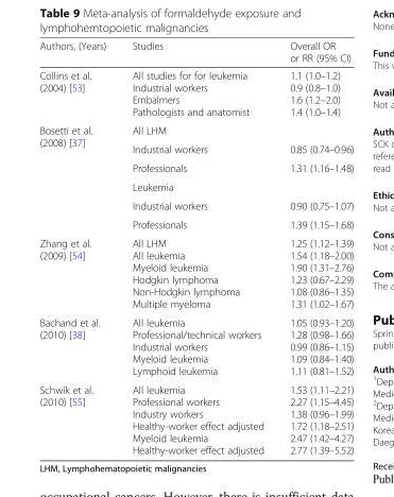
<table><thead><tr><td>Authors, (Years)</td><td>Studies</td><td>Overall OR or RR (95% CI)</td></tr></thead><tbody><tr><td>Collins et al. (2004) [53]</td><td>All studies for for leukemia Industrial workers Embalmers Pathologists and anatomist</td><td>1.1 (1.0–1.2) 0.9 (0.8–1.0) 1.6 (1.2–2.0) 1.4 (1.0–1.4)</td></tr><tr><td rowspan="6">Bosetti et al. (2008) [37]</td><td>All LHM</td><td></td></tr><tr><td>Industrial workers</td><td>0.85 (0.74–0.96)</td></tr><tr><td>Professionals</td><td>1.31 (1.16–1.48)</td></tr><tr><td>Leukemia</td><td></td></tr><tr><td>Industrial workers</td><td>0.90 (0.75–1.07)</td></tr><tr><td>Professionals</td><td>1.39 (1.15–1.68)</td></tr><tr><td>Zhang et al. (2009) [54]</td><td>All LHM All leukemia Myeloid leukemia Hodgkin lymphoma Non-Hodgkin lymphoma Multiple myeloma</td><td>1.25 (1.12–1.39) 1.54 (1.18–2.00) 1.90 (1.31–2.76) 1.23 (0.67–2.29) 1.08 (0.86–1.35) 1.31 (1.02–1.67)</td></tr><tr><td>Bachand et al. (2010) [38]</td><td>All leukemia Professional/technical workers Industrial workers Myeloid leukemia Lymphoid leukemia</td><td>1.05 (0.93–1.20) 1.28 (0.98–1.66) 0.99 (0.86–1.15) 1.09 (0.84–1.40) 1.11 (0.81–1.52)</td></tr><tr><td>Schwik et al. (2010) [55]</td><td>All leukemia Professional workers Industry workers Healthy-worker effect adjusted Myeloid leukemia Healthy-worker effect adjusted</td><td>1.53 (1.11–2.21) 2.27 (1.15–4.45) 1.38 (0.96–1.99) 1.72 (1.18–2.51) 2.47 (1.42–4.27) 2.77 (1.39–5.52)</td></tr></tbody></table>